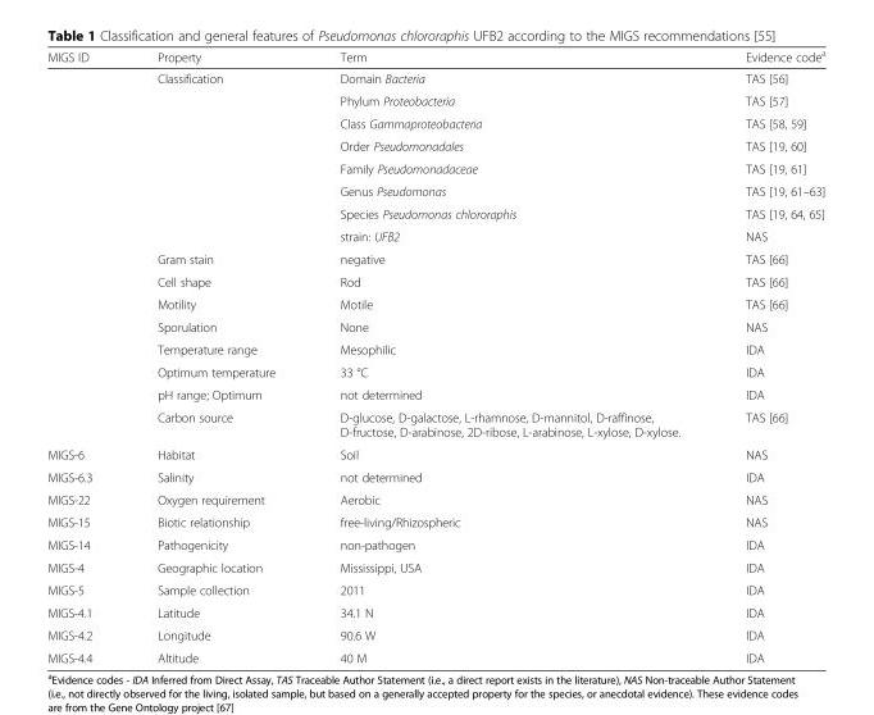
<table><thead><tr><td>MIGS ID</td><td>Property</td><td>Term</td><td>Evidence code<sup>a</sup></td></tr></thead><tbody><tr><td></td><td>Classification</td><td>Domain Bacteria</td><td>TAS [56]</td></tr><tr><td></td><td></td><td>Phylum Proteobacteria</td><td>TAS [57]</td></tr><tr><td></td><td></td><td>Class Gammaproteobacteria</td><td>TAS [58, 59]</td></tr><tr><td></td><td></td><td>Order Pseudomonadales</td><td>TAS [19, 60]</td></tr><tr><td></td><td></td><td>Family Pseudomonadaceae</td><td>TAS [19, 61]</td></tr><tr><td></td><td></td><td>Genus Pseudomonas</td><td>TAS [19, 61–63]</td></tr><tr><td></td><td></td><td>Species Pseudomonas chlororaphis</td><td>TAS [19, 64, 65]</td></tr><tr><td></td><td></td><td>strain: UFB2</td><td>NAS</td></tr><tr><td></td><td>Gram stain</td><td>negative</td><td>TAS [66]</td></tr><tr><td></td><td>Cell shape</td><td>Rod</td><td>TAS [66]</td></tr><tr><td></td><td>Motility</td><td>Motile</td><td>TAS [66]</td></tr><tr><td></td><td>Sporulation</td><td>None</td><td>NAS</td></tr><tr><td></td><td>Temperature range</td><td>Mesophilic</td><td>IDA</td></tr><tr><td></td><td>Optimum temperature</td><td>33 °C</td><td>IDA</td></tr><tr><td></td><td>pH range; Optimum</td><td>not determined</td><td>IDA</td></tr><tr><td></td><td>Carbon source</td><td>D-glucose, D-galactose, L-rhamnose, D-mannitol, D-raffinose, D-fructose, D-arabinose, 2D-ribose, L-arabinose, L-xylose, D-xylose.</td><td>TAS [66]</td></tr><tr><td>MIGS-6</td><td>Habitat</td><td>Soil</td><td>NAS</td></tr><tr><td>MIGS-6.3</td><td>Salinity</td><td>not determined</td><td>IDA</td></tr><tr><td>MIGS-22</td><td>Oxygen requirement</td><td>Aerobic</td><td>NAS</td></tr><tr><td>MIGS-15</td><td>Biotic relationship</td><td>free-living/Rhizospheric</td><td>NAS</td></tr><tr><td>MIGS-14</td><td>Pathogenicity</td><td>non-pathogen</td><td>IDA</td></tr><tr><td>MIGS-4</td><td>Geographic location</td><td>Mississippi, USA</td><td>IDA</td></tr><tr><td>MIGS-5</td><td>Sample collection</td><td>2011</td><td>IDA</td></tr><tr><td>MIGS-4.1</td><td>Latitude</td><td>34.1 N</td><td>IDA</td></tr><tr><td>MIGS-4.2</td><td>Longitude</td><td>90.6 W</td><td>IDA</td></tr><tr><td>MIGS-4.4</td><td>Altitude</td><td>40 M</td><td>IDA</td></tr></tbody></table>